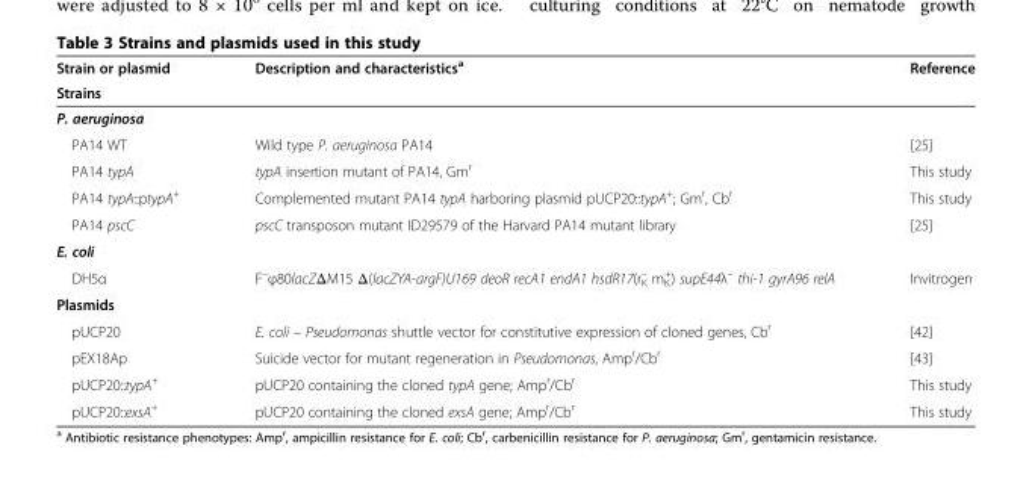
<table><thead><tr><td rowspan="2">Strain or plasmid Strains</td><td rowspan="2">Description and characteristics<sup>a</sup></td><td rowspan="2">Reference</td></tr><tr></tr></thead><tbody><tr><td colspan="3">P. aeruginosa</td></tr><tr><td>PA14 WT</td><td>Wild type P. aeruginosa PA14</td><td>[25]</td></tr><tr><td>PA14 typA</td><td>typA insertion mutant of PA14, Gm<sup>r</sup></td><td>This study</td></tr><tr><td>PA14 typA::ptypA<sup>+</sup></td><td>Complemented mutant PA14 typA harboring plasmid pUCP20::typA<sup>+</sup>; Gm<sup>r</sup>, Cb<sup>r</sup></td><td>This study</td></tr><tr><td>PA14 pscC</td><td>pscC transposon mutant ID29579 of the Harvard PA14 mutant library</td><td>[25]</td></tr><tr><td colspan="3">E. coli</td></tr><tr><td>DH5α</td><td>F<sup>–</sup>φ80lacZΔM15 Δ(lacZYA-argF)U169 deoR recA1 endA1 hsdR17(r<sub>K</sub> <sup>–</sup> m<sub>K</sub> <sup>+</sup>) supE44λ<sup>–</sup> thi-1 gyrA96 relA</td><td>Invitrogen</td></tr><tr><td colspan="3">Plasmids</td></tr><tr><td>pUCP20</td><td>E. coli – Pseudomonas shuttle vector for constitutive expression of cloned genes, Cb<sup>r</sup></td><td>[42]</td></tr><tr><td>pEX18Ap</td><td>Suicide vector for mutant regeneration in Pseudomonas, Amp<sup>r</sup>/Cb<sup>r</sup></td><td>[43]</td></tr><tr><td>pUCP20::typA<sup>+</sup></td><td>pUCP20 containing the cloned typA gene; Amp<sup>r</sup>/Cb<sup>r</sup></td><td>This study</td></tr><tr><td>pUCP20::exsA<sup>+</sup></td><td>pUCP20 containing the cloned exsA gene; Amp<sup>r</sup>/Cb<sup>r</sup></td><td>This study</td></tr></tbody></table>